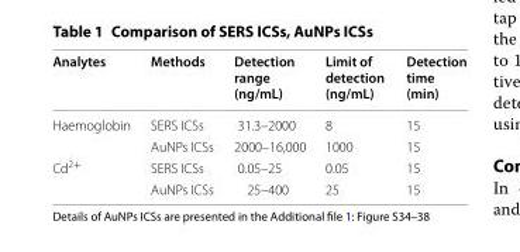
<table><thead><tr><td>Analytes</td><td>Methods</td><td>Detection range (ng/mL)</td><td>Limit of detection (ng/mL)</td><td>Detection time (min)</td></tr></thead><tbody><tr><td rowspan="2">Haemoglobin</td><td>SERS ICSs</td><td>31.3–2000</td><td>8</td><td>15</td></tr><tr><td>AuNPs ICSs</td><td>2000–16,000</td><td>1000</td><td>15</td></tr><tr><td rowspan="2">Cd<sup>2+</sup></td><td>SERS ICSs</td><td>0.05–25</td><td>0.05</td><td>15</td></tr><tr><td>AuNPs ICSs</td><td>25–400</td><td>25</td><td>15</td></tr></tbody></table>